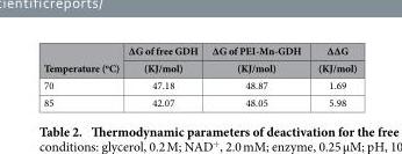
<table><thead><tr><td rowspan="2">Temperature (<sup>o</sup>C)</td><td rowspan="2">ΔG of free GDH (KJ/mol)</td><td rowspan="2">ΔG of PEI-Mn-GDH (KJ/mol)</td><td rowspan="2">ΔΔG (KJ/mol)</td></tr><tr></tr></thead><tbody><tr><td>70</td><td>47.18</td><td>48.87</td><td>1.69</td></tr><tr><td>85</td><td>42.07</td><td>48.05</td><td>5.98</td></tr></tbody></table>